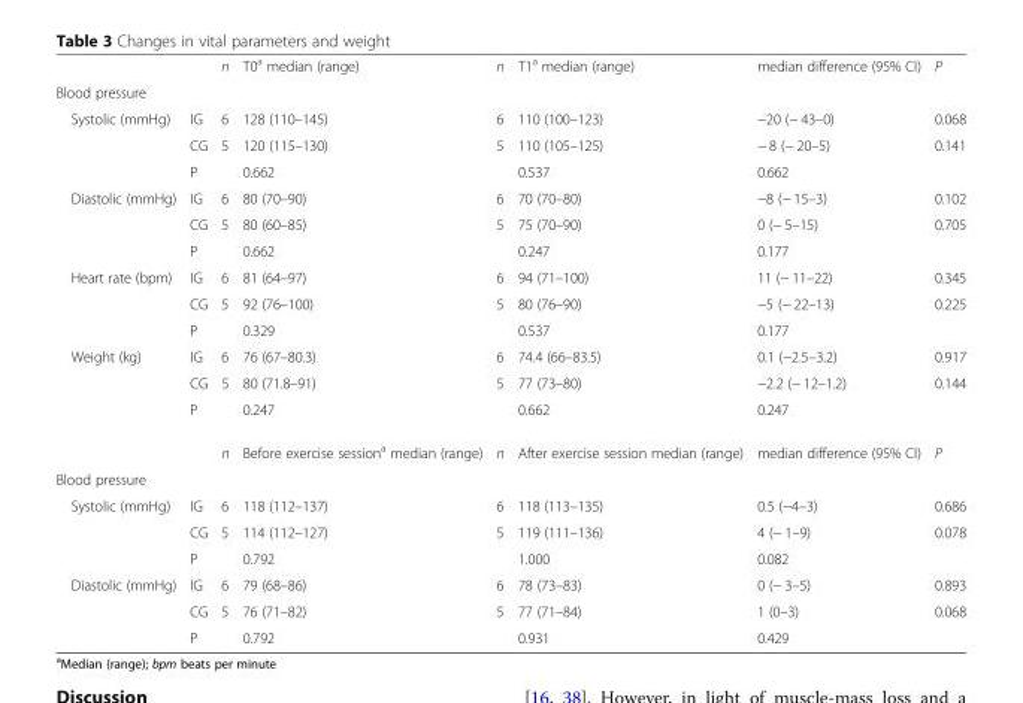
<table><thead><tr><td></td><td></td><td>n</td><td>T0<sup>a</sup> median (range)</td><td>n</td><td>T1<sup>a</sup> median (range)</td><td>median difference (95% CI)</td><td>P</td></tr></thead><tbody><tr><td colspan="8">Blood pressure</td></tr><tr><td rowspan="3">Systolic (mmHg)</td><td>IG</td><td>6</td><td>128 (110–145)</td><td>6</td><td>110 (100–123)</td><td>−20 (− 43–0)</td><td>0.068</td></tr><tr><td>CG</td><td>5</td><td>120 (115–130)</td><td>5</td><td>110 (105–125)</td><td>− 8 (− 20–5)</td><td>0.141</td></tr><tr><td>P</td><td></td><td>0.662</td><td></td><td>0.537</td><td>0.662</td><td></td></tr><tr><td rowspan="3">Diastolic (mmHg)</td><td>IG</td><td>6</td><td>80 (70–90)</td><td>6</td><td>70 (70–80)</td><td>−8 (− 15–3)</td><td>0.102</td></tr><tr><td>CG</td><td>5</td><td>80 (60–85)</td><td>5</td><td>75 (70–90)</td><td>0 (− 5–15)</td><td>0.705</td></tr><tr><td>P</td><td></td><td>0.662</td><td></td><td>0.247</td><td>0.177</td><td></td></tr><tr><td rowspan="3">Heart rate (bpm)</td><td>IG</td><td>6</td><td>81 (64–97)</td><td>6</td><td>94 (71–100)</td><td>11 (− 11–22)</td><td>0.345</td></tr><tr><td>CG</td><td>5</td><td>92 (76–100)</td><td>5</td><td>80 (76–90)</td><td>−5 (− 22–13)</td><td>0.225</td></tr><tr><td>P</td><td></td><td>0.329</td><td></td><td>0.537</td><td>0.177</td><td></td></tr><tr><td rowspan="4">Weight (kg)</td><td>IG</td><td>6</td><td>76 (67–80.3)</td><td>6</td><td>74.4 (66–83.5)</td><td>0.1 (−2.5–3.2)</td><td>0.917</td></tr><tr><td>CG</td><td>5</td><td>80 (71.8–91)</td><td>5</td><td>77 (73–80)</td><td>−2.2 (− 12–1.2)</td><td>0.144</td></tr><tr><td>P</td><td></td><td>0.247</td><td></td><td>0.662</td><td>0.247</td><td></td></tr><tr><td></td><td>n</td><td>Before exercise session<sup>a</sup> median (range)</td><td>n</td><td>After exercise session median (range)</td><td>median difference (95% CI)</td><td>P</td></tr><tr><td colspan="8">Blood pressure</td></tr><tr><td rowspan="3">Systolic (mmHg)</td><td>IG</td><td>6</td><td>118 (112–137)</td><td>6</td><td>118 (113–135)</td><td>0.5 (−4–3)</td><td>0.686</td></tr><tr><td>CG</td><td>5</td><td>114 (112–127)</td><td>5</td><td>119 (111–136)</td><td>4 (− 1–9)</td><td>0.078</td></tr><tr><td>P</td><td></td><td>0.792</td><td></td><td>1.000</td><td>0.082</td><td></td></tr><tr><td rowspan="3">Diastolic (mmHg)</td><td>IG</td><td>6</td><td>79 (68–86)</td><td>6</td><td>78 (73–83)</td><td>0 (− 3–5)</td><td>0.893</td></tr><tr><td>CG</td><td>5</td><td>76 (71–82)</td><td>5</td><td>77 (71–84)</td><td>1 (0–3)</td><td>0.068</td></tr><tr><td>P</td><td></td><td>0.792</td><td></td><td>0.931</td><td>0.429</td><td></td></tr></tbody></table>